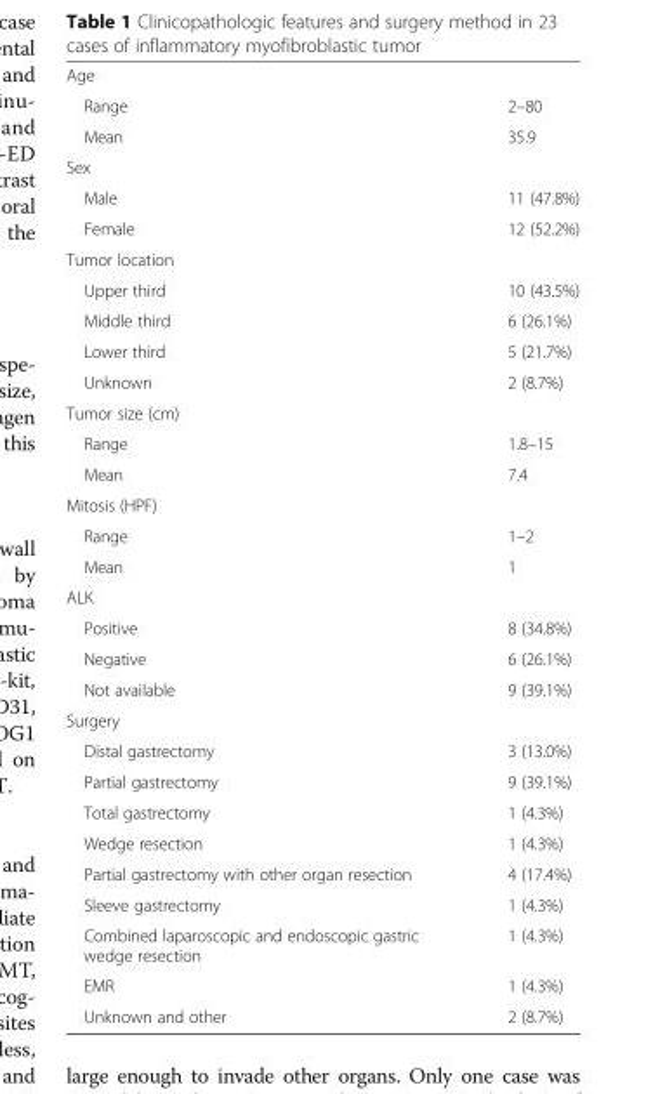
<table><tbody><tr><td colspan="2">Age</td></tr><tr><td>Range</td><td>2–80</td></tr><tr><td>Mean</td><td>35.9</td></tr><tr><td colspan="2">Sex</td></tr><tr><td>Male</td><td>11 (47.8%)</td></tr><tr><td>Female</td><td>12 (52.2%)</td></tr><tr><td colspan="2">Tumor location</td></tr><tr><td>Upper third</td><td>10 (43.5%)</td></tr><tr><td>Middle third</td><td>6 (26.1%)</td></tr><tr><td>Lower third</td><td>5 (21.7%)</td></tr><tr><td>Unknown</td><td>2 (8.7%)</td></tr><tr><td colspan="2">Tumor size (cm)</td></tr><tr><td>Range</td><td>1.8–15</td></tr><tr><td>Mean</td><td>7.4</td></tr><tr><td colspan="2">Mitosis (HPF)</td></tr><tr><td>Range</td><td>1–2</td></tr><tr><td>Mean</td><td>1</td></tr><tr><td colspan="2">ALK</td></tr><tr><td>Positive</td><td>8 (34.8%)</td></tr><tr><td>Negative</td><td>6 (26.1%)</td></tr><tr><td>Not available</td><td>9 (39.1%)</td></tr><tr><td colspan="2">Surgery</td></tr><tr><td>Distal gastrectomy</td><td>3 (13.0%)</td></tr><tr><td>Partial gastrectomy</td><td>9 (39.1%)</td></tr><tr><td>Total gastrectomy</td><td>1 (4.3%)</td></tr><tr><td>Wedge resection</td><td>1 (4.3%)</td></tr><tr><td>Partial gastrectomy with other organ resection</td><td>4 (17.4%)</td></tr><tr><td>Sleeve gastrectomy</td><td>1 (4.3%)</td></tr><tr><td>Combined laparoscopic and endoscopic gastric wedge resection</td><td>1 (4.3%)</td></tr><tr><td>EMR</td><td>1 (4.3%)</td></tr><tr><td>Unknown and other</td><td>2 (8.7%)</td></tr></tbody></table>